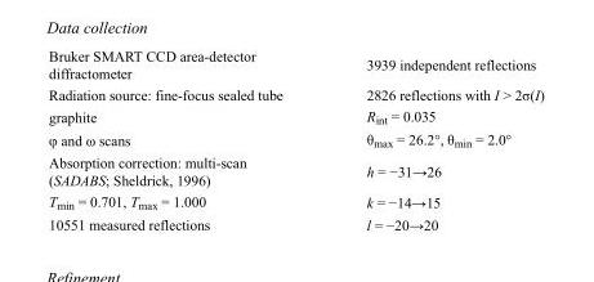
<table><tbody><tr><td>Bruker SMART CCD area-detector diffractometer</td><td>3939 independent reflections</td></tr><tr><td>Radiation source: fine-focus sealed tube</td><td>2826 reflections with I &gt; 2σ(I)</td></tr><tr><td>graphite</td><td>R<sub>int</sub> = 0.035</td></tr><tr><td>φ and ω scans</td><td>θ<sub>max</sub> = 26.2°, θ<sub>min</sub> = 2.0°</td></tr><tr><td>Absorption correction: multi-scan (SADABS; Sheldrick, 1996)</td><td>h = −31→26</td></tr><tr><td>T<sub>min</sub> = 0.701, T<sub>max</sub> = 1.000</td><td>k = −14→15</td></tr><tr><td>10551 measured reflections</td><td>l = −20→20</td></tr></tbody></table>